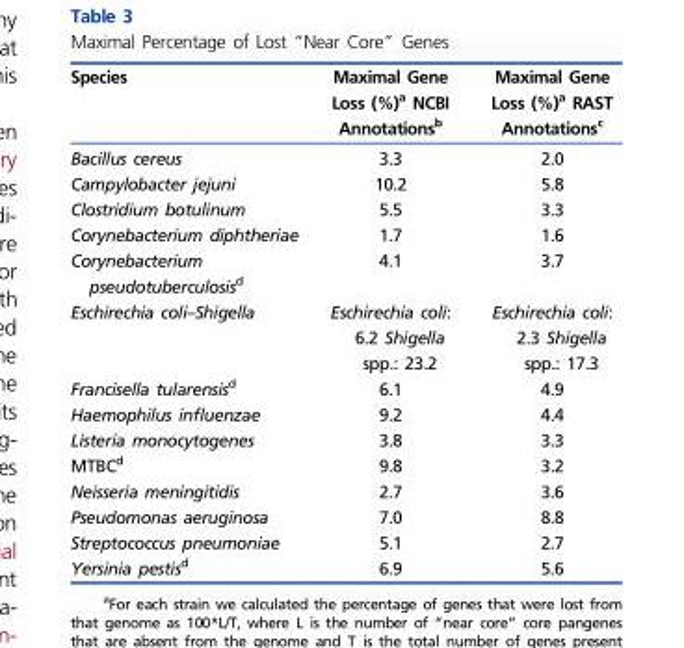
<table><thead><tr><td>Species</td><td>Maximal Gene Loss (%)<sup>a</sup> NCBI Annotations<sup>b</sup></td><td>Maximal Gene Loss (%)<sup>a</sup> RAST Annotations<sup>c</sup></td></tr></thead><tbody><tr><td>Bacillus cereus</td><td>3.3</td><td>2.0</td></tr><tr><td>Campylobacter jejuni</td><td>10.2</td><td>5.8</td></tr><tr><td>Clostridium botulinum</td><td>5.5</td><td>3.3</td></tr><tr><td>Corynebacterium diphtheriae</td><td>1.7</td><td>1.6</td></tr><tr><td>Corynebacterium pseudotuberculosis<sup>d</sup></td><td>4.1</td><td>3.7</td></tr><tr><td>Eschirechia coli–Shigella</td><td>Eschirechia coli: 6.2 Shigella spp.: 23.2</td><td>Eschirechia coli: 2.3 Shigella spp.: 17.3</td></tr><tr><td>Francisella tularensis<sup>d</sup></td><td>6.1</td><td>4.9</td></tr><tr><td>Haemophilus influenzae</td><td>9.2</td><td>4.4</td></tr><tr><td>Listeria monocytogenes</td><td>3.8</td><td>3.3</td></tr><tr><td>MTBC<sup>d</sup></td><td>9.8</td><td>3.2</td></tr><tr><td>Neisseria meningitidis</td><td>2.7</td><td>3.6</td></tr><tr><td>Pseudomonas aeruginosa</td><td>7.0</td><td>8.8</td></tr><tr><td>Streptococcus pneumoniae</td><td>5.1</td><td>2.7</td></tr><tr><td>Yersinia pestis<sup>d</sup></td><td>6.9</td><td>5.6</td></tr></tbody></table>